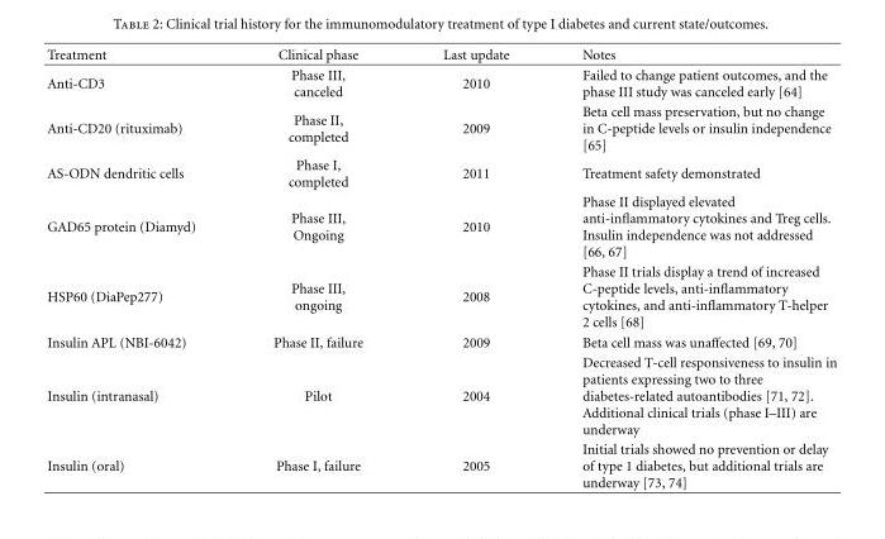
<table><thead><tr><td>Treatment</td><td>Clinical phase</td><td>Last update</td><td>Notes</td></tr></thead><tbody><tr><td>Anti-CD3</td><td>Phase III, canceled</td><td>2010</td><td>Failed to change patient outcomes, and the phase III study was canceled early [64]</td></tr><tr><td>Anti-CD20 (rituximab)</td><td>Phase II, completed</td><td>2009</td><td>Beta cell mass preservation, but no change in C-peptide levels or insulin independence [65]</td></tr><tr><td>AS-ODN dendritic cells</td><td>Phase I, completed</td><td>2011</td><td>Treatment safety demonstrated</td></tr><tr><td>GAD65 protein (Diamyd)</td><td>Phase III, Ongoing</td><td>2010</td><td>Phase II displayed elevated anti-inflammatory cytokines and Treg cells. Insulin independence was not addressed [66, 67]</td></tr><tr><td>HSP60 (DiaPep277)</td><td>Phase III, ongoing</td><td>2008</td><td>Phase II trials display a trend of increased C-peptide levels, anti-inflammatory cytokines, and anti-inflammatory T-helper 2 cells [68]</td></tr><tr><td>Insulin APL (NBI-6042)</td><td>Phase II, failure</td><td>2009</td><td>Beta cell mass was unaffected [69, 70]</td></tr><tr><td>Insulin (intranasal)</td><td>Pilot</td><td>2004</td><td>Decreased T-cell responsiveness to insulin in patients expressing two to three diabetes-related autoantibodies [71, 72]. Additional clinical trials (phase I–III) are underway</td></tr><tr><td>Insulin (oral)</td><td>Phase I, failure</td><td>2005</td><td>Initial trials showed no prevention or delay of type 1 diabetes, but additional trials are underway [73, 74]</td></tr></tbody></table>